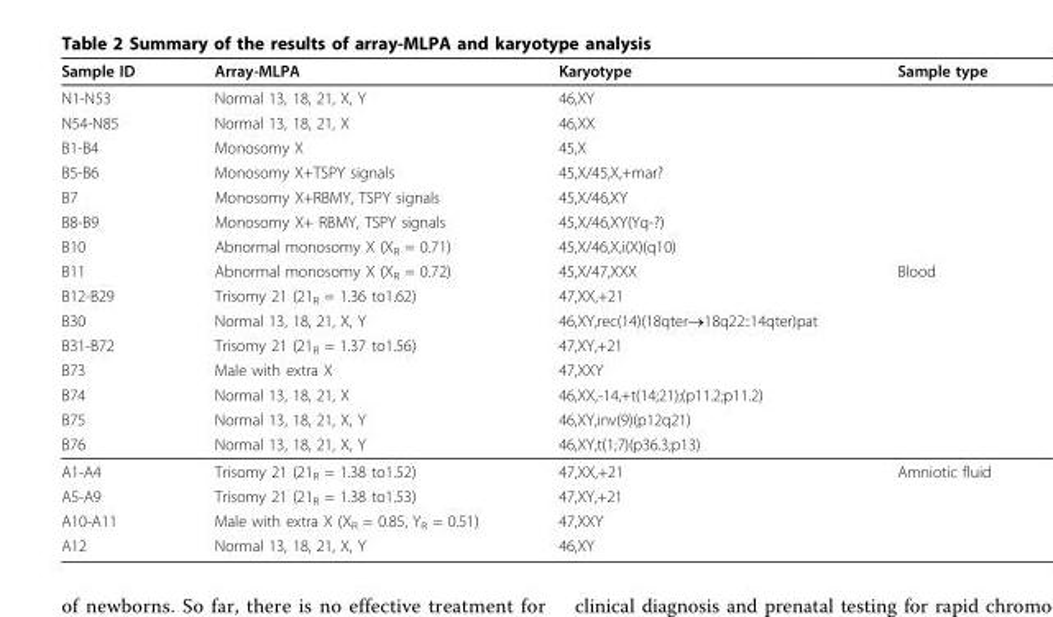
<table><thead><tr><td>Sample ID</td><td>Array-MLPA</td><td>Karyotype</td><td>Sample type</td></tr></thead><tbody><tr><td>N1-N53</td><td>Normal 13, 18, 21, X, Y</td><td>46,XY</td><td></td></tr><tr><td>N54-N85</td><td>Normal 13, 18, 21, X</td><td>46,XX</td><td></td></tr><tr><td>B1-B4</td><td>Monosomy X</td><td>45,X</td><td></td></tr><tr><td>B5-B6</td><td>Monosomy X+TSPY signals</td><td>45,X/45,X,+mar?</td><td></td></tr><tr><td>B7</td><td>Monosomy X+RBMY, TSPY signals</td><td>45,X/46,XY</td><td></td></tr><tr><td>B8-B9</td><td>Monosomy X+ RBMY, TSPY signals</td><td>45,X/46,XY(Yq-?)</td><td></td></tr><tr><td>B10</td><td>Abnormal monosomy X (X<sub>R</sub> = 0.71)</td><td>45,X/46,X,i(X)(q10)</td><td></td></tr><tr><td>B11</td><td>Abnormal monosomy X (X<sub>R</sub> = 0.72)</td><td>45,X/47,XXX</td><td>Blood</td></tr><tr><td>B12-B29</td><td>Trisomy 21 (21<sub>R</sub> = 1.36 to1.62)</td><td>47,XX,+21</td><td></td></tr><tr><td>B30</td><td>Normal 13, 18, 21, X, Y</td><td>46,XY,rec(14)(18qter→18q22::14qter)pat</td><td></td></tr><tr><td>B31-B72</td><td>Trisomy 21 (21<sub>R</sub> = 1.37 to1.56)</td><td>47,XY,+21</td><td></td></tr><tr><td>B73</td><td>Male with extra X</td><td>47,XXY</td><td></td></tr><tr><td>B74</td><td>Normal 13, 18, 21, X</td><td>46,XX,-14,+t(14;21);(p11.2;p11.2)</td><td></td></tr><tr><td>B75</td><td>Normal 13, 18, 21, X, Y</td><td>46,XY,inv(9)(p12q21)</td><td></td></tr><tr><td>B76</td><td>Normal 13, 18, 21, X, Y</td><td>46,XY,t(1;7)(p36.3;p13)</td><td></td></tr><tr><td>A1-A4</td><td>Trisomy 21 (21<sub>R</sub> = 1.38 to1.52)</td><td>47,XX,+21</td><td>Amniotic fluid</td></tr><tr><td>A5-A9</td><td>Trisomy 21 (21<sub>R</sub> = 1.38 to1.53)</td><td>47,XY,+21</td><td></td></tr><tr><td>A10-A11</td><td>Male with extra X (X<sub>R</sub> = 0.85, Y<sub>R</sub> = 0.51)</td><td>47,XXY</td><td></td></tr><tr><td>A12</td><td>Normal 13, 18, 21, X, Y</td><td>46,XY</td><td></td></tr></tbody></table>